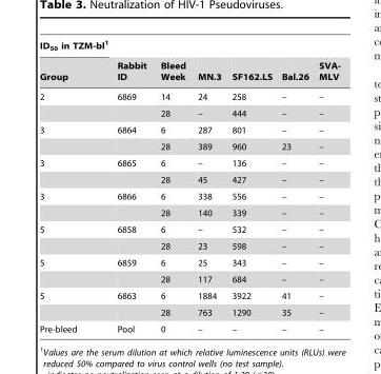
<table><thead><tr><td rowspan="2">ID<sub>50</sub> in TZM-bl<sup>1</sup> Group</td><td rowspan="2">Rabbit ID</td><td rowspan="2">Bleed Week</td><td rowspan="2">MN.3</td><td rowspan="2">SF162.LS</td><td rowspan="2">Bal.26</td><td rowspan="2">SVA- MLV</td></tr><tr></tr></thead><tbody><tr><td rowspan="2">2</td><td>6869</td><td>14</td><td>24</td><td>258</td><td>–</td><td>–</td></tr><tr><td></td><td>28</td><td>–</td><td>444</td><td>–</td><td>–</td></tr><tr><td rowspan="2">3</td><td>6864</td><td>6</td><td>287</td><td>801</td><td>–</td><td>–</td></tr><tr><td></td><td>28</td><td>389</td><td>960</td><td>23</td><td>–</td></tr><tr><td rowspan="2">3</td><td>6865</td><td>6</td><td>–</td><td>136</td><td>–</td><td>–</td></tr><tr><td></td><td>28</td><td>45</td><td>427</td><td>–</td><td>–</td></tr><tr><td rowspan="2">3</td><td>6866</td><td>6</td><td>338</td><td>556</td><td>–</td><td>–</td></tr><tr><td></td><td>28</td><td>140</td><td>339</td><td>–</td><td>–</td></tr><tr><td rowspan="2">5</td><td>6858</td><td>6</td><td>–</td><td>532</td><td>–</td><td>–</td></tr><tr><td></td><td>28</td><td>23</td><td>598</td><td>–</td><td>–</td></tr><tr><td rowspan="2">5</td><td>6859</td><td>6</td><td>25</td><td>343</td><td>–</td><td>–</td></tr><tr><td></td><td>28</td><td>117</td><td>684</td><td>–</td><td>–</td></tr><tr><td rowspan="2">5</td><td>6863</td><td>6</td><td>1884</td><td>3922</td><td>41</td><td>–</td></tr><tr><td></td><td>28</td><td>763</td><td>1290</td><td>35</td><td>–</td></tr><tr><td>Pre-bleed</td><td>Pool</td><td>0</td><td>–</td><td>–</td><td>–</td><td>–</td></tr></tbody></table>